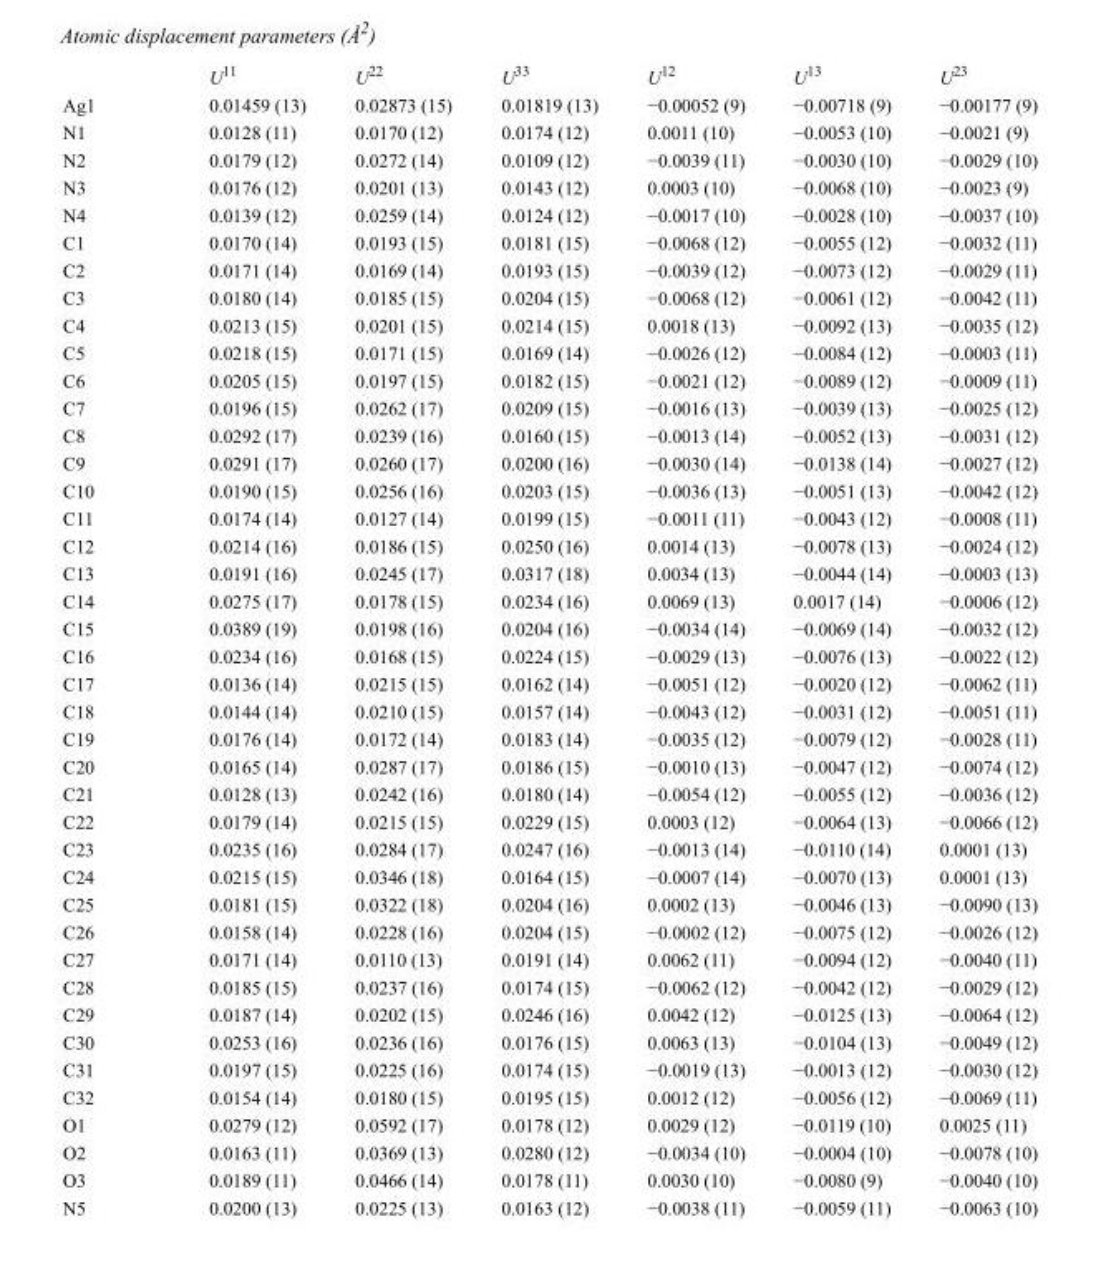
<table><thead><tr><td></td><td>U<sup>11</sup></td><td>U<sup>22</sup></td><td>U<sup>33</sup></td><td>U<sup>12</sup></td><td>U<sup>13</sup></td><td>U<sup>23</sup></td></tr></thead><tbody><tr><td>Ag1</td><td>0.01459 (13)</td><td>0.02873 (15)</td><td>0.01819 (13)</td><td>−0.00052 (9)</td><td>−0.00718 (9)</td><td>−0.00177 (9)</td></tr><tr><td>N1</td><td>0.0128 (11)</td><td>0.0170 (12)</td><td>0.0174 (12)</td><td>0.0011 (10)</td><td>−0.0053 (10)</td><td>−0.0021 (9)</td></tr><tr><td>N2</td><td>0.0179 (12)</td><td>0.0272 (14)</td><td>0.0109 (12)</td><td>−0.0039 (11)</td><td>−0.0030 (10)</td><td>−0.0029 (10)</td></tr><tr><td>N3</td><td>0.0176 (12)</td><td>0.0201 (13)</td><td>0.0143 (12)</td><td>0.0003 (10)</td><td>−0.0068 (10)</td><td>−0.0023 (9)</td></tr><tr><td>N4</td><td>0.0139 (12)</td><td>0.0259 (14)</td><td>0.0124 (12)</td><td>−0.0017 (10)</td><td>−0.0028 (10)</td><td>−0.0037 (10)</td></tr><tr><td>C1</td><td>0.0170 (14)</td><td>0.0193 (15)</td><td>0.0181 (15)</td><td>−0.0068 (12)</td><td>−0.0055 (12)</td><td>−0.0032 (11)</td></tr><tr><td>C2</td><td>0.0171 (14)</td><td>0.0169 (14)</td><td>0.0193 (15)</td><td>−0.0039 (12)</td><td>−0.0073 (12)</td><td>−0.0029 (11)</td></tr><tr><td>C3</td><td>0.0180 (14)</td><td>0.0185 (15)</td><td>0.0204 (15)</td><td>−0.0068 (12)</td><td>−0.0061 (12)</td><td>−0.0042 (11)</td></tr><tr><td>C4</td><td>0.0213 (15)</td><td>0.0201 (15)</td><td>0.0214 (15)</td><td>0.0018 (13)</td><td>−0.0092 (13)</td><td>−0.0035 (12)</td></tr><tr><td>C5</td><td>0.0218 (15)</td><td>0.0171 (15)</td><td>0.0169 (14)</td><td>−0.0026 (12)</td><td>−0.0084 (12)</td><td>−0.0003 (11)</td></tr><tr><td>C6</td><td>0.0205 (15)</td><td>0.0197 (15)</td><td>0.0182 (15)</td><td>−0.0021 (12)</td><td>−0.0089 (12)</td><td>−0.0009 (11)</td></tr><tr><td>C7</td><td>0.0196 (15)</td><td>0.0262 (17)</td><td>0.0209 (15)</td><td>−0.0016 (13)</td><td>−0.0039 (13)</td><td>−0.0025 (12)</td></tr><tr><td>C8</td><td>0.0292 (17)</td><td>0.0239 (16)</td><td>0.0160 (15)</td><td>−0.0013 (14)</td><td>−0.0052 (13)</td><td>−0.0031 (12)</td></tr><tr><td>C9</td><td>0.0291 (17)</td><td>0.0260 (17)</td><td>0.0200 (16)</td><td>−0.0030 (14)</td><td>−0.0138 (14)</td><td>−0.0027 (12)</td></tr><tr><td>C10</td><td>0.0190 (15)</td><td>0.0256 (16)</td><td>0.0203 (15)</td><td>−0.0036 (13)</td><td>−0.0051 (13)</td><td>−0.0042 (12)</td></tr><tr><td>C11</td><td>0.0174 (14)</td><td>0.0127 (14)</td><td>0.0199 (15)</td><td>−0.0011 (11)</td><td>−0.0043 (12)</td><td>−0.0008 (11)</td></tr><tr><td>C12</td><td>0.0214 (16)</td><td>0.0186 (15)</td><td>0.0250 (16)</td><td>0.0014 (13)</td><td>−0.0078 (13)</td><td>−0.0024 (12)</td></tr><tr><td>C13</td><td>0.0191 (16)</td><td>0.0245 (17)</td><td>0.0317 (18)</td><td>0.0034 (13)</td><td>−0.0044 (14)</td><td>−0.0003 (13)</td></tr><tr><td>C14</td><td>0.0275 (17)</td><td>0.0178 (15)</td><td>0.0234 (16)</td><td>0.0069 (13)</td><td>0.0017 (14)</td><td>−0.0006 (12)</td></tr><tr><td>C15</td><td>0.0389 (19)</td><td>0.0198 (16)</td><td>0.0204 (16)</td><td>−0.0034 (14)</td><td>−0.0069 (14)</td><td>−0.0032 (12)</td></tr><tr><td>C16</td><td>0.0234 (16)</td><td>0.0168 (15)</td><td>0.0224 (15)</td><td>−0.0029 (13)</td><td>−0.0076 (13)</td><td>−0.0022 (12)</td></tr><tr><td>C17</td><td>0.0136 (14)</td><td>0.0215 (15)</td><td>0.0162 (14)</td><td>−0.0051 (12)</td><td>−0.0020 (12)</td><td>−0.0062 (11)</td></tr><tr><td>C18</td><td>0.0144 (14)</td><td>0.0210 (15)</td><td>0.0157 (14)</td><td>−0.0043 (12)</td><td>−0.0031 (12)</td><td>−0.0051 (11)</td></tr><tr><td>C19</td><td>0.0176 (14)</td><td>0.0172 (14)</td><td>0.0183 (14)</td><td>−0.0035 (12)</td><td>−0.0079 (12)</td><td>−0.0028 (11)</td></tr><tr><td>C20</td><td>0.0165 (14)</td><td>0.0287 (17)</td><td>0.0186 (15)</td><td>−0.0010 (13)</td><td>−0.0047 (12)</td><td>−0.0074 (12)</td></tr><tr><td>C21</td><td>0.0128 (13)</td><td>0.0242 (16)</td><td>0.0180 (14)</td><td>−0.0054 (12)</td><td>−0.0055 (12)</td><td>−0.0036 (12)</td></tr><tr><td>C22</td><td>0.0179 (14)</td><td>0.0215 (15)</td><td>0.0229 (15)</td><td>0.0003 (12)</td><td>−0.0064 (13)</td><td>−0.0066 (12)</td></tr><tr><td>C23</td><td>0.0235 (16)</td><td>0.0284 (17)</td><td>0.0247 (16)</td><td>−0.0013 (14)</td><td>−0.0110 (14)</td><td>0.0001 (13)</td></tr><tr><td>C24</td><td>0.0215 (15)</td><td>0.0346 (18)</td><td>0.0164 (15)</td><td>−0.0007 (14)</td><td>−0.0070 (13)</td><td>0.0001 (13)</td></tr><tr><td>C25</td><td>0.0181 (15)</td><td>0.0322 (18)</td><td>0.0204 (16)</td><td>0.0002 (13)</td><td>−0.0046 (13)</td><td>−0.0090 (13)</td></tr><tr><td>C26</td><td>0.0158 (14)</td><td>0.0228 (16)</td><td>0.0204 (15)</td><td>−0.0002 (12)</td><td>−0.0075 (12)</td><td>−0.0026 (12)</td></tr><tr><td>C27</td><td>0.0171 (14)</td><td>0.0110 (13)</td><td>0.0191 (14)</td><td>0.0062 (11)</td><td>−0.0094 (12)</td><td>−0.0040 (11)</td></tr><tr><td>C28</td><td>0.0185 (15)</td><td>0.0237 (16)</td><td>0.0174 (15)</td><td>−0.0062 (12)</td><td>−0.0042 (12)</td><td>−0.0029 (12)</td></tr><tr><td>C29</td><td>0.0187 (14)</td><td>0.0202 (15)</td><td>0.0246 (16)</td><td>0.0042 (12)</td><td>−0.0125 (13)</td><td>−0.0064 (12)</td></tr><tr><td>C30</td><td>0.0253 (16)</td><td>0.0236 (16)</td><td>0.0176 (15)</td><td>0.0063 (13)</td><td>−0.0104 (13)</td><td>−0.0049 (12)</td></tr><tr><td>C31</td><td>0.0197 (15)</td><td>0.0225 (16)</td><td>0.0174 (15)</td><td>−0.0019 (13)</td><td>−0.0013 (12)</td><td>−0.0030 (12)</td></tr><tr><td>C32</td><td>0.0154 (14)</td><td>0.0180 (15)</td><td>0.0195 (15)</td><td>0.0012 (12)</td><td>−0.0056 (12)</td><td>−0.0069 (11)</td></tr><tr><td>O1</td><td>0.0279 (12)</td><td>0.0592 (17)</td><td>0.0178 (12)</td><td>0.0029 (12)</td><td>−0.0119 (10)</td><td>0.0025 (11)</td></tr><tr><td>O2</td><td>0.0163 (11)</td><td>0.0369 (13)</td><td>0.0280 (12)</td><td>−0.0034 (10)</td><td>−0.0004 (10)</td><td>−0.0078 (10)</td></tr><tr><td>O3</td><td>0.0189 (11)</td><td>0.0466 (14)</td><td>0.0178 (11)</td><td>0.0030 (10)</td><td>−0.0080 (9)</td><td>−0.0040 (10)</td></tr><tr><td>N5</td><td>0.0200 (13)</td><td>0.0225 (13)</td><td>0.0163 (12)</td><td>−0.0038 (11)</td><td>−0.0059 (11)</td><td>−0.0063 (10)</td></tr></tbody></table>